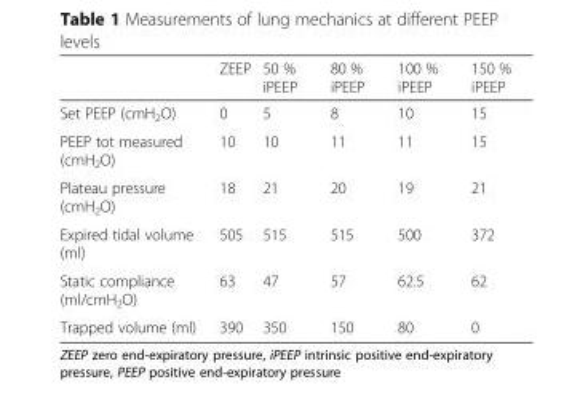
<table><thead><tr><td></td><td>ZEEP</td><td>50 % iPEEP</td><td>80 % iPEEP</td><td>100 % iPEEP</td><td>150 % iPEEP</td></tr></thead><tbody><tr><td>Set PEEP (cmH<sub>2</sub>O)</td><td>0</td><td>5</td><td>8</td><td>10</td><td>15</td></tr><tr><td>PEEP tot measured (cmH<sub>2</sub>O)</td><td>10</td><td>10</td><td>11</td><td>11</td><td>15</td></tr><tr><td>Plateau pressure (cmH<sub>2</sub>O)</td><td>18</td><td>21</td><td>20</td><td>19</td><td>21</td></tr><tr><td>Expired tidal volume (ml)</td><td>505</td><td>515</td><td>515</td><td>500</td><td>372</td></tr><tr><td>Static compliance (ml/cmH<sub>2</sub>O)</td><td>63</td><td>47</td><td>57</td><td>62.5</td><td>62</td></tr><tr><td>Trapped volume (ml)</td><td>390</td><td>350</td><td>150</td><td>80</td><td>0</td></tr></tbody></table>